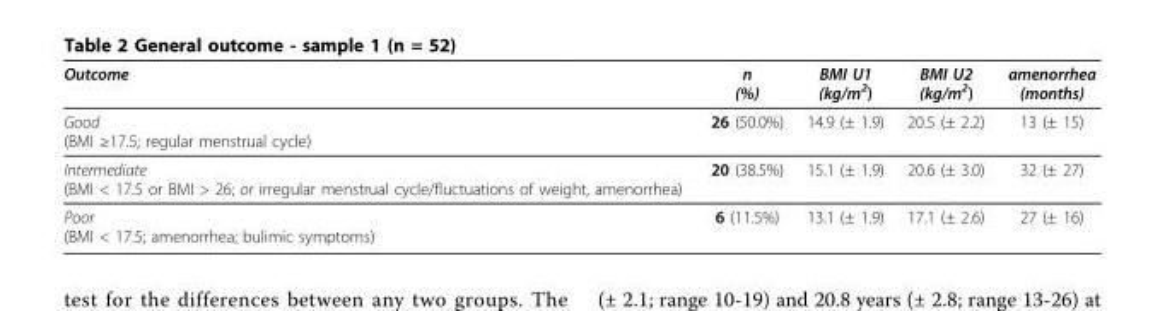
<table><thead><tr><td>Outcome</td><td>n (%)</td><td>BMI U1 (kg/m<sup>2</sup>)</td><td>BMI U2 (kg/m<sup>2</sup>)</td><td>amenorrhea (months)</td></tr></thead><tbody><tr><td>Good (BMI ≥17.5; regular menstrual cycle)</td><td>26 (50.0%)</td><td>14.9 (± 1.9)</td><td>20.5 (± 2.2)</td><td>13 (± 15)</td></tr><tr><td>Intermediate (BMI &lt; 17.5 or BMI &gt; 26; or irregular menstrual cycle/fluctuations of weight, amenorrhea)</td><td>20 (38.5%)</td><td>15.1 (± 1.9)</td><td>20.6 (± 3.0)</td><td>32 (± 27)</td></tr><tr><td>Poor (BMI &lt; 17.5; amenorrhea; bulimic symptoms)</td><td>6 (11.5%)</td><td>13.1 (± 1.9)</td><td>17.1 (± 2.6)</td><td>27 (± 16)</td></tr></tbody></table>